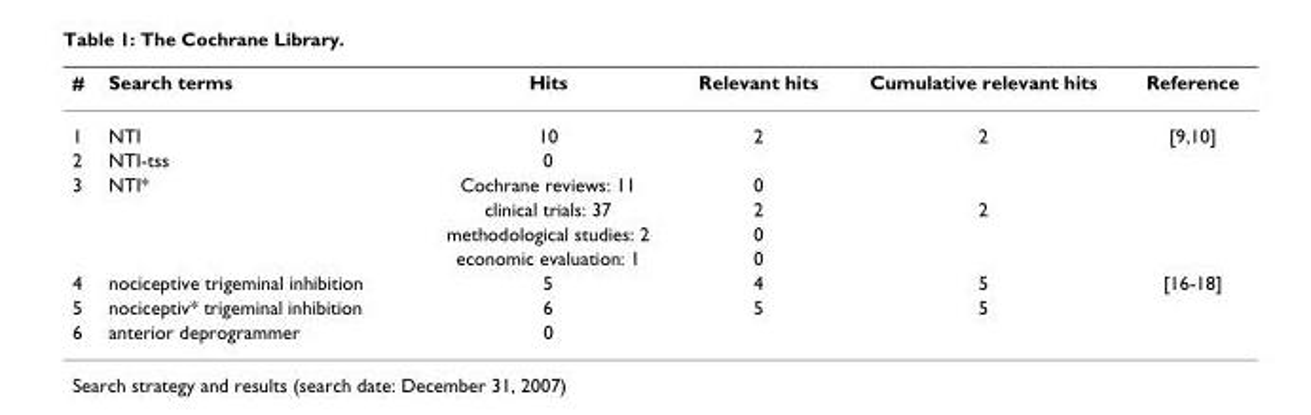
<table><thead><tr><td>#</td><td>Search terms</td><td>Hits</td><td>Relevant hits</td><td>Cumulative relevant hits</td><td>Reference</td></tr></thead><tbody><tr><td>1</td><td>NTI</td><td>10</td><td>2</td><td>2</td><td>[9,10]</td></tr><tr><td>2</td><td>NTI-tss</td><td>0</td><td></td><td></td><td></td></tr><tr><td rowspan="4">3</td><td>NTI*</td><td>Cochrane reviews: 11</td><td>0</td><td></td><td></td></tr><tr><td></td><td>clinical trials: 37</td><td>2</td><td>2</td><td></td></tr><tr><td></td><td>methodological studies: 2</td><td>0</td><td></td><td></td></tr><tr><td></td><td>economic evaluation: 1</td><td>0</td><td></td><td></td></tr><tr><td>4</td><td>nociceptive trigeminal inhibition</td><td>5</td><td>4</td><td>5</td><td>[16-18]</td></tr><tr><td>5</td><td>nociceptiv* trigeminal inhibition</td><td>6</td><td>5</td><td>5</td><td></td></tr><tr><td>6</td><td>anterior deprogrammer</td><td>0</td><td></td><td></td><td></td></tr></tbody></table>